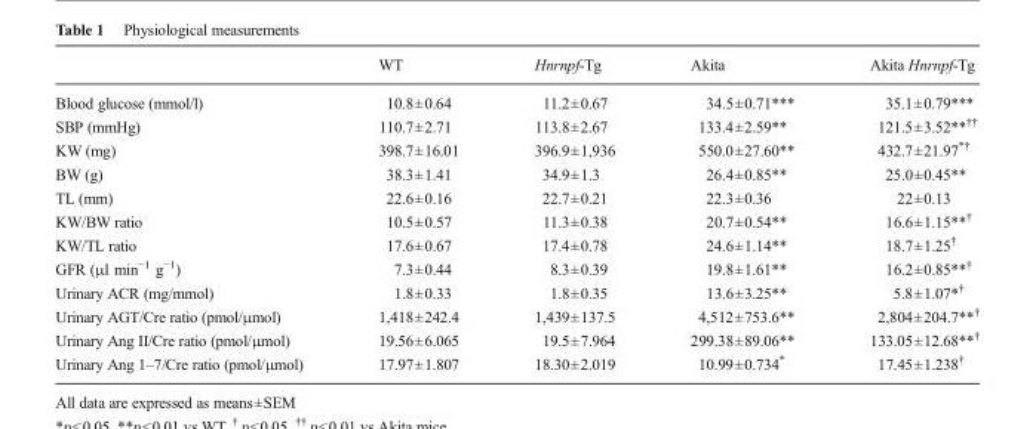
<table><thead><tr><td></td><td>WT</td><td>Hnrnpf-Tg</td><td>Akita</td><td>Akita Hnrnpf-Tg</td></tr></thead><tbody><tr><td>Blood glucose (mmol/l)</td><td>10.8±0.64</td><td>11.2±0.67</td><td>34.5±0.71***</td><td>35.1±0.79***</td></tr><tr><td>SBP (mmHg)</td><td>110.7±2.71</td><td>113.8±2.67</td><td>133.4±2.59**</td><td>121.5±3.52**<sup>††</sup></td></tr><tr><td>KW (mg)</td><td>398.7±16.01</td><td>396.9±1,936</td><td>550.0±27.60**</td><td>432.7±21.97<sup>*†</sup></td></tr><tr><td>BW (g)</td><td>38.3±1.41</td><td>34.9±1.3</td><td>26.4±0.85**</td><td>25.0±0.45**</td></tr><tr><td>TL (mm)</td><td>22.6±0.16</td><td>22.7±0.21</td><td>22.3±0.36</td><td>22±0.13</td></tr><tr><td>KW/BW ratio</td><td>10.5±0.57</td><td>11.3±0.38</td><td>20.7±0.54**</td><td>16.6±1.15**<sup>†</sup></td></tr><tr><td>KW/TL ratio</td><td>17.6±0.67</td><td>17.4±0.78</td><td>24.6±1.14**</td><td>18.7±1.25<sup>†</sup></td></tr><tr><td>GFR (μl min<sup>−1</sup> g<sup>−1</sup>)</td><td>7.3±0.44</td><td>8.3±0.39</td><td>19.8±1.61**</td><td>16.2±0.85**<sup>†</sup></td></tr><tr><td>Urinary ACR (mg/mmol)</td><td>1.8±0.33</td><td>1.8±0.35</td><td>13.6±3.25**</td><td>5.8±1.07*<sup>†</sup></td></tr><tr><td>Urinary AGT/Cre ratio (pmol/μmol)</td><td>1,418±242.4</td><td>1,439±137.5</td><td>4,512±753.6**</td><td>2,804±204.7**<sup>†</sup></td></tr><tr><td>Urinary Ang II/Cre ratio (pmol/μmol)</td><td>19.56±6.065</td><td>19.5±7.964</td><td>299.38±89.06**</td><td>133.05±12.68**<sup>†</sup></td></tr><tr><td>Urinary Ang 1–7/Cre ratio (pmol/μmol)</td><td>17.97±1.807</td><td>18.30±2.019</td><td>10.99±0.734*</td><td>17.45±1.238<sup>†</sup></td></tr></tbody></table>